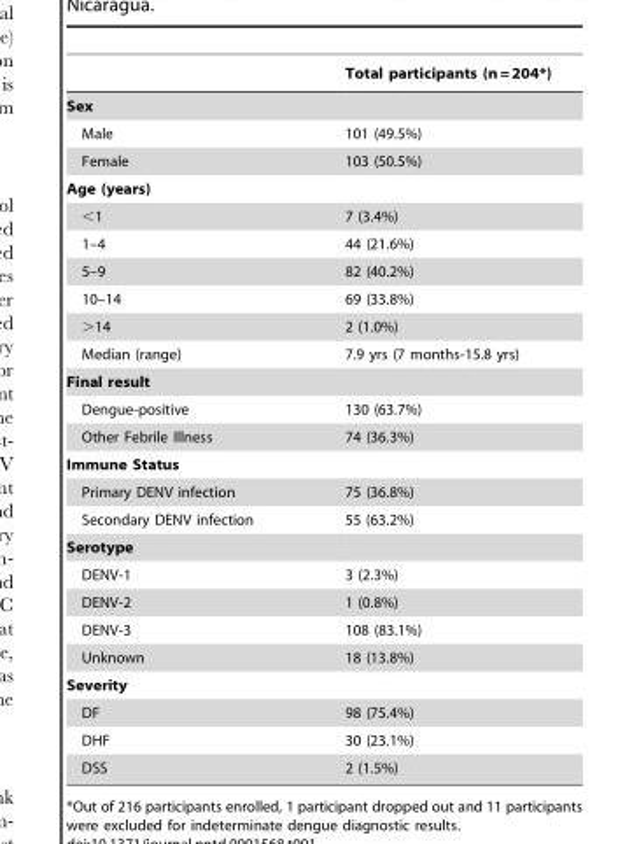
<table><thead><tr><td></td><td>Total participants (n = 204*)</td></tr></thead><tbody><tr><td colspan="2">Sex</td></tr><tr><td>Male</td><td>101 (49.5%)</td></tr><tr><td>Female</td><td>103 (50.5%)</td></tr><tr><td colspan="2">Age (years)</td></tr><tr><td>&lt;1</td><td>7 (3.4%)</td></tr><tr><td>1–4</td><td>44 (21.6%)</td></tr><tr><td>5–9</td><td>82 (40.2%)</td></tr><tr><td>10–14</td><td>69 (33.8%)</td></tr><tr><td>&gt;14</td><td>2 (1.0%)</td></tr><tr><td>Median (range)</td><td>7.9 yrs (7 months-15.8 yrs)</td></tr><tr><td colspan="2">Final result</td></tr><tr><td>Dengue-positive</td><td>130 (63.7%)</td></tr><tr><td>Other Febrile Illness</td><td>74 (36.3%)</td></tr><tr><td colspan="2">Immune Status</td></tr><tr><td>Primary DENV infection</td><td>75 (36.8%)</td></tr><tr><td>Secondary DENV infection</td><td>55 (63.2%)</td></tr><tr><td colspan="2">Serotype</td></tr><tr><td>DENV-1</td><td>3 (2.3%)</td></tr><tr><td>DENV-2</td><td>1 (0.8%)</td></tr><tr><td>DENV-3</td><td>108 (83.1%)</td></tr><tr><td>Unknown</td><td>18 (13.8%)</td></tr><tr><td colspan="2">Severity</td></tr><tr><td>DF</td><td>98 (75.4%)</td></tr><tr><td>DHF</td><td>30 (23.1%)</td></tr><tr><td>DSS</td><td>2 (1.5%)</td></tr></tbody></table>